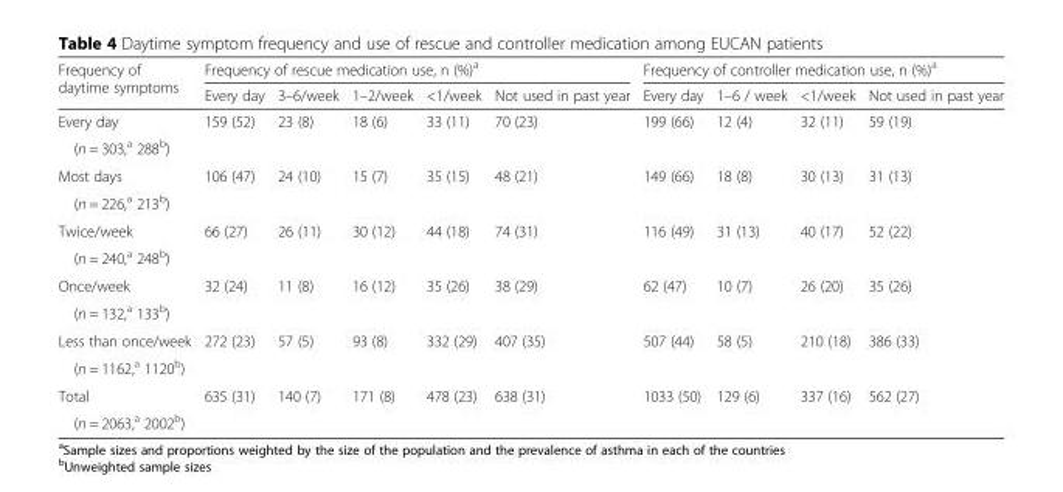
<table><thead><tr><td rowspan="2">Frequency of daytime symptoms</td><td colspan="5">Frequency of rescue medication use, n (%)<sup>a</sup></td><td colspan="4">Frequency of controller medication use, n (%)<sup>a</sup></td></tr><tr><td>Every day</td><td>3–6/week</td><td>1–2/week</td><td>&lt;1/week</td><td>Not used in past year</td><td>Every day</td><td>1–6 / week</td><td>&lt;1/week</td><td>Not used in past year</td></tr></thead><tbody><tr><td>Every day</td><td rowspan="2">159 (52)</td><td rowspan="2">23 (8)</td><td rowspan="2">18 (6)</td><td rowspan="2">33 (11)</td><td rowspan="2">70 (23)</td><td rowspan="2">199 (66)</td><td rowspan="2">12 (4)</td><td rowspan="2">32 (11)</td><td rowspan="2">59 (19)</td></tr><tr><td>(n = 303,<sup>a</sup> 288<sup>b</sup>)</td></tr><tr><td>Most days</td><td rowspan="2">106 (47)</td><td rowspan="2">24 (10)</td><td rowspan="2">15 (7)</td><td rowspan="2">35 (15)</td><td rowspan="2">48 (21)</td><td rowspan="2">149 (66)</td><td rowspan="2">18 (8)</td><td rowspan="2">30 (13)</td><td rowspan="2">31 (13)</td></tr><tr><td>(n = 226,<sup>a</sup> 213<sup>b</sup>)</td></tr><tr><td>Twice/week</td><td rowspan="2">66 (27)</td><td rowspan="2">26 (11)</td><td rowspan="2">30 (12)</td><td rowspan="2">44 (18)</td><td rowspan="2">74 (31)</td><td rowspan="2">116 (49)</td><td rowspan="2">31 (13)</td><td rowspan="2">40 (17)</td><td rowspan="2">52 (22)</td></tr><tr><td>(n = 240,<sup>a</sup> 248<sup>b</sup>)</td></tr><tr><td>Once/week</td><td rowspan="2">32 (24)</td><td rowspan="2">11 (8)</td><td rowspan="2">16 (12)</td><td rowspan="2">35 (26)</td><td rowspan="2">38 (29)</td><td rowspan="2">62 (47)</td><td rowspan="2">10 (7)</td><td rowspan="2">26 (20)</td><td rowspan="2">35 (26)</td></tr><tr><td>(n = 132,<sup>a</sup> 133<sup>b</sup>)</td></tr><tr><td>Less than once/week</td><td rowspan="2">272 (23)</td><td rowspan="2">57 (5)</td><td rowspan="2">93 (8)</td><td rowspan="2">332 (29)</td><td rowspan="2">407 (35)</td><td rowspan="2">507 (44)</td><td rowspan="2">58 (5)</td><td rowspan="2">210 (18)</td><td rowspan="2">386 (33)</td></tr><tr><td>(n = 1162,<sup>a</sup> 1120<sup>b</sup>)</td></tr><tr><td>Total</td><td rowspan="2">635 (31)</td><td rowspan="2">140 (7)</td><td rowspan="2">171 (8)</td><td rowspan="2">478 (23)</td><td rowspan="2">638 (31)</td><td rowspan="2">1033 (50)</td><td rowspan="2">129 (6)</td><td rowspan="2">337 (16)</td><td rowspan="2">562 (27)</td></tr><tr><td>(n = 2063,<sup>a</sup> 2002<sup>b</sup>)</td></tr></tbody></table>